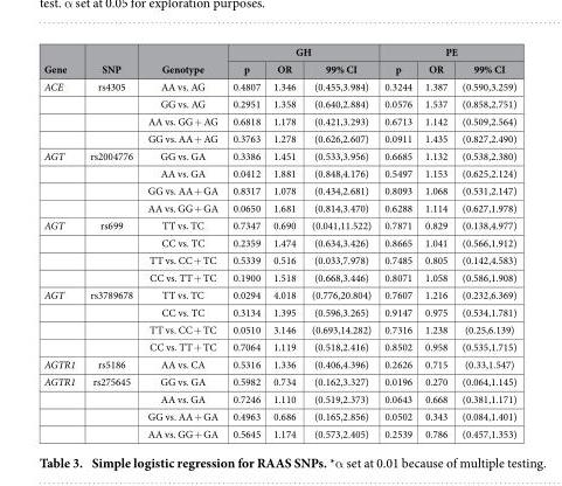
<table><thead><tr><td rowspan="2">Gene</td><td rowspan="2">SNP</td><td rowspan="2">Genotype</td><td colspan="3">GH</td><td colspan="3">PE</td></tr><tr><td>p</td><td>OR</td><td>99% CI</td><td>p</td><td>OR</td><td>99% CI</td></tr></thead><tbody><tr><td rowspan="4">ACE</td><td>rs4305</td><td>AA vs. AG</td><td>0.4807</td><td>1.346</td><td>(0.455,3.984)</td><td>0.3244</td><td>1.387</td><td>(0.590,3.259)</td></tr><tr><td></td><td>GG vs. AG</td><td>0.2951</td><td>1.358</td><td>(0.640,2.884)</td><td>0.0576</td><td>1.537</td><td>(0.858,2.751)</td></tr><tr><td></td><td>AA vs. GG + AG</td><td>0.6818</td><td>1.178</td><td>(0.421,3.293)</td><td>0.6713</td><td>1.142</td><td>(0.509,2.564)</td></tr><tr><td></td><td>GG vs. AA + AG</td><td>0.3763</td><td>1.278</td><td>(0.626,2.607)</td><td>0.0911</td><td>1.435</td><td>(0.827,2.490)</td></tr><tr><td rowspan="4">AGT</td><td>rs2004776</td><td>GG vs. GA</td><td>0.3386</td><td>1.451</td><td>(0.533,3.956)</td><td>0.6685</td><td>1.132</td><td>(0.538,2.380)</td></tr><tr><td></td><td>AA vs. GA</td><td>0.0412</td><td>1.881</td><td>(0.848,4.176)</td><td>0.5497</td><td>1.153</td><td>(0.625,2.124)</td></tr><tr><td></td><td>GG vs. AA + GA</td><td>0.8317</td><td>1.078</td><td>(0.434,2.681)</td><td>0.8093</td><td>1.068</td><td>(0.531,2.147)</td></tr><tr><td></td><td>AA vs. GG + GA</td><td>0.0650</td><td>1.681</td><td>(0.814,3.470)</td><td>0.6288</td><td>1.114</td><td>(0.627,1.978)</td></tr><tr><td rowspan="4">AGT</td><td>rs699</td><td>TT vs. TC</td><td>0.7347</td><td>0.690</td><td>(0.041,11.522)</td><td>0.7871</td><td>0.829</td><td>(0.138,4.977)</td></tr><tr><td></td><td>CC vs. TC</td><td>0.2359</td><td>1.474</td><td>(0.634,3.426)</td><td>0.8665</td><td>1.041</td><td>(0.566,1.912)</td></tr><tr><td></td><td>TT vs. CC + TC</td><td>0.5339</td><td>0.516</td><td>(0.033,7.978)</td><td>0.7485</td><td>0.805</td><td>(0.142,4.583)</td></tr><tr><td></td><td>CC vs. TT + TC</td><td>0.1900</td><td>1.518</td><td>(0.668,3.446)</td><td>0.8071</td><td>1.058</td><td>(0.586,1.908)</td></tr><tr><td rowspan="4">AGT</td><td>rs3789678</td><td>TT vs. TC</td><td>0.0294</td><td>4.018</td><td>(0.776,20.804)</td><td>0.7607</td><td>1.216</td><td>(0.232,6.369)</td></tr><tr><td></td><td>CC vs. TC</td><td>0.3134</td><td>1.395</td><td>(0.596,3.265)</td><td>0.9147</td><td>0.975</td><td>(0.534,1.781)</td></tr><tr><td></td><td>TT vs. CC + TC</td><td>0.0510</td><td>3.146</td><td>(0.693,14.282)</td><td>0.7316</td><td>1.238</td><td>(0.25,6.139)</td></tr><tr><td></td><td>CC vs. TT + TC</td><td>0.7064</td><td>1.119</td><td>(0.518,2.416)</td><td>0.8502</td><td>0.958</td><td>(0.535,1.715)</td></tr><tr><td>AGTR1</td><td>rs5186</td><td>AA vs. CA</td><td>0.5316</td><td>1.336</td><td>(0.406,4.396)</td><td>0.2626</td><td>0.715</td><td>(0.33,1.547)</td></tr><tr><td rowspan="4">AGTR1</td><td>rs275645</td><td>GG vs. GA</td><td>0.5982</td><td>0.734</td><td>(0.162,3.327)</td><td>0.0196</td><td>0.270</td><td>(0.064,1.145)</td></tr><tr><td></td><td>AA vs. GA</td><td>0.7246</td><td>1.110</td><td>(0.519,2.373)</td><td>0.0643</td><td>0.668</td><td>(0.381,1.171)</td></tr><tr><td></td><td>GG vs. AA + GA</td><td>0.4963</td><td>0.686</td><td>(0.165,2.856)</td><td>0.0502</td><td>0.343</td><td>(0.084,1.401)</td></tr><tr><td></td><td>AA vs. GG + GA</td><td>0.5645</td><td>1.174</td><td>(0.573,2.405)</td><td>0.2539</td><td>0.786</td><td>(0.457,1.353)</td></tr></tbody></table>